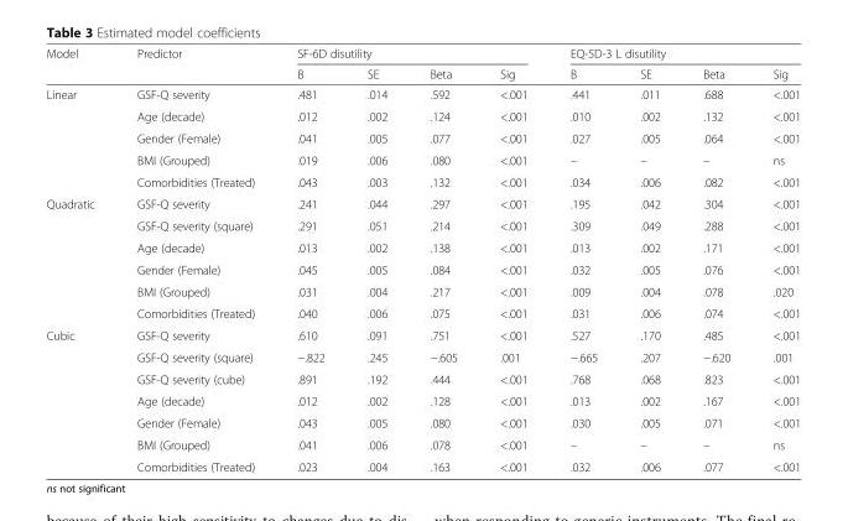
<table><thead><tr><td rowspan="2">Model</td><td rowspan="2">Predictor</td><td colspan="4">SF-6D disutility</td><td colspan="4">EQ-5D-3 L disutility</td></tr><tr><td>B</td><td>SE</td><td>Beta</td><td>Sig</td><td>B</td><td>SE</td><td>Beta</td><td>Sig</td></tr></thead><tbody><tr><td rowspan="5">Linear</td><td>GSF-Q severity</td><td>.481</td><td>.014</td><td>.592</td><td>&lt;.001</td><td>.441</td><td>.011</td><td>.688</td><td>&lt;.001</td></tr><tr><td>Age (decade)</td><td>.012</td><td>.002</td><td>.124</td><td>&lt;.001</td><td>.010</td><td>.002</td><td>.132</td><td>&lt;.001</td></tr><tr><td>Gender (Female)</td><td>.041</td><td>.005</td><td>.077</td><td>&lt;.001</td><td>.027</td><td>.005</td><td>.064</td><td>&lt;.001</td></tr><tr><td>BMI (Grouped)</td><td>.019</td><td>.006</td><td>.080</td><td>&lt;.001</td><td>–</td><td>–</td><td>–</td><td>ns</td></tr><tr><td>Comorbidities (Treated)</td><td>.043</td><td>.003</td><td>.132</td><td>&lt;.001</td><td>.034</td><td>.006</td><td>.082</td><td>&lt;.001</td></tr><tr><td rowspan="6">Quadratic</td><td>GSF-Q severity</td><td>.241</td><td>.044</td><td>.297</td><td>&lt;.001</td><td>.195</td><td>.042</td><td>.304</td><td>&lt;.001</td></tr><tr><td>GSF-Q severity (square)</td><td>.291</td><td>.051</td><td>.214</td><td>&lt;.001</td><td>.309</td><td>.049</td><td>.288</td><td>&lt;.001</td></tr><tr><td>Age (decade)</td><td>.013</td><td>.002</td><td>.138</td><td>&lt;.001</td><td>.013</td><td>.002</td><td>.171</td><td>&lt;.001</td></tr><tr><td>Gender (Female)</td><td>.045</td><td>.005</td><td>.084</td><td>&lt;.001</td><td>.032</td><td>.005</td><td>.076</td><td>&lt;.001</td></tr><tr><td>BMI (Grouped)</td><td>.031</td><td>.004</td><td>.217</td><td>&lt;.001</td><td>.009</td><td>.004</td><td>.078</td><td>.020</td></tr><tr><td>Comorbidities (Treated)</td><td>.040</td><td>.006</td><td>.075</td><td>&lt;.001</td><td>.031</td><td>.006</td><td>.074</td><td>&lt;.001</td></tr><tr><td rowspan="7">Cubic</td><td>GSF-Q severity</td><td>.610</td><td>.091</td><td>.751</td><td>&lt;.001</td><td>.527</td><td>.170</td><td>.485</td><td>&lt;.001</td></tr><tr><td>GSF-Q severity (square)</td><td>−.822</td><td>.245</td><td>−.605</td><td>.001</td><td>−.665</td><td>.207</td><td>−.620</td><td>.001</td></tr><tr><td>GSF-Q severity (cube)</td><td>.891</td><td>.192</td><td>.444</td><td>&lt;.001</td><td>.768</td><td>.068</td><td>.823</td><td>&lt;.001</td></tr><tr><td>Age (decade)</td><td>.012</td><td>.002</td><td>.128</td><td>&lt;.001</td><td>.013</td><td>.002</td><td>.167</td><td>&lt;.001</td></tr><tr><td>Gender (Female)</td><td>.043</td><td>.005</td><td>.080</td><td>&lt;.001</td><td>.030</td><td>.005</td><td>.071</td><td>&lt;.001</td></tr><tr><td>BMI (Grouped)</td><td>.041</td><td>.006</td><td>.078</td><td>&lt;.001</td><td>–</td><td>–</td><td>–</td><td>ns</td></tr><tr><td>Comorbidities (Treated)</td><td>.023</td><td>.004</td><td>.163</td><td>&lt;.001</td><td>.032</td><td>.006</td><td>.077</td><td>&lt;.001</td></tr></tbody></table>